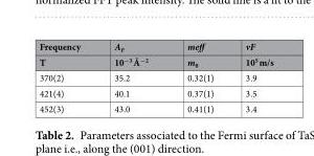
<table><thead><tr><td rowspan="2">Frequency T</td><td rowspan="2">A<sub>F</sub> 10<sup>−3</sup> Å<sup>−2</sup></td><td rowspan="2">meff m<sub>0</sub></td><td rowspan="2">vF 10<sup>5</sup> m/s</td></tr><tr></tr></thead><tbody><tr><td>370(2)</td><td>35.2</td><td>0.32(1)</td><td>3.9</td></tr><tr><td>421(4)</td><td>40.1</td><td>0.37(1)</td><td>3.5</td></tr><tr><td>452(3)</td><td>43.0</td><td>0.41(1)</td><td>3.4</td></tr></tbody></table>